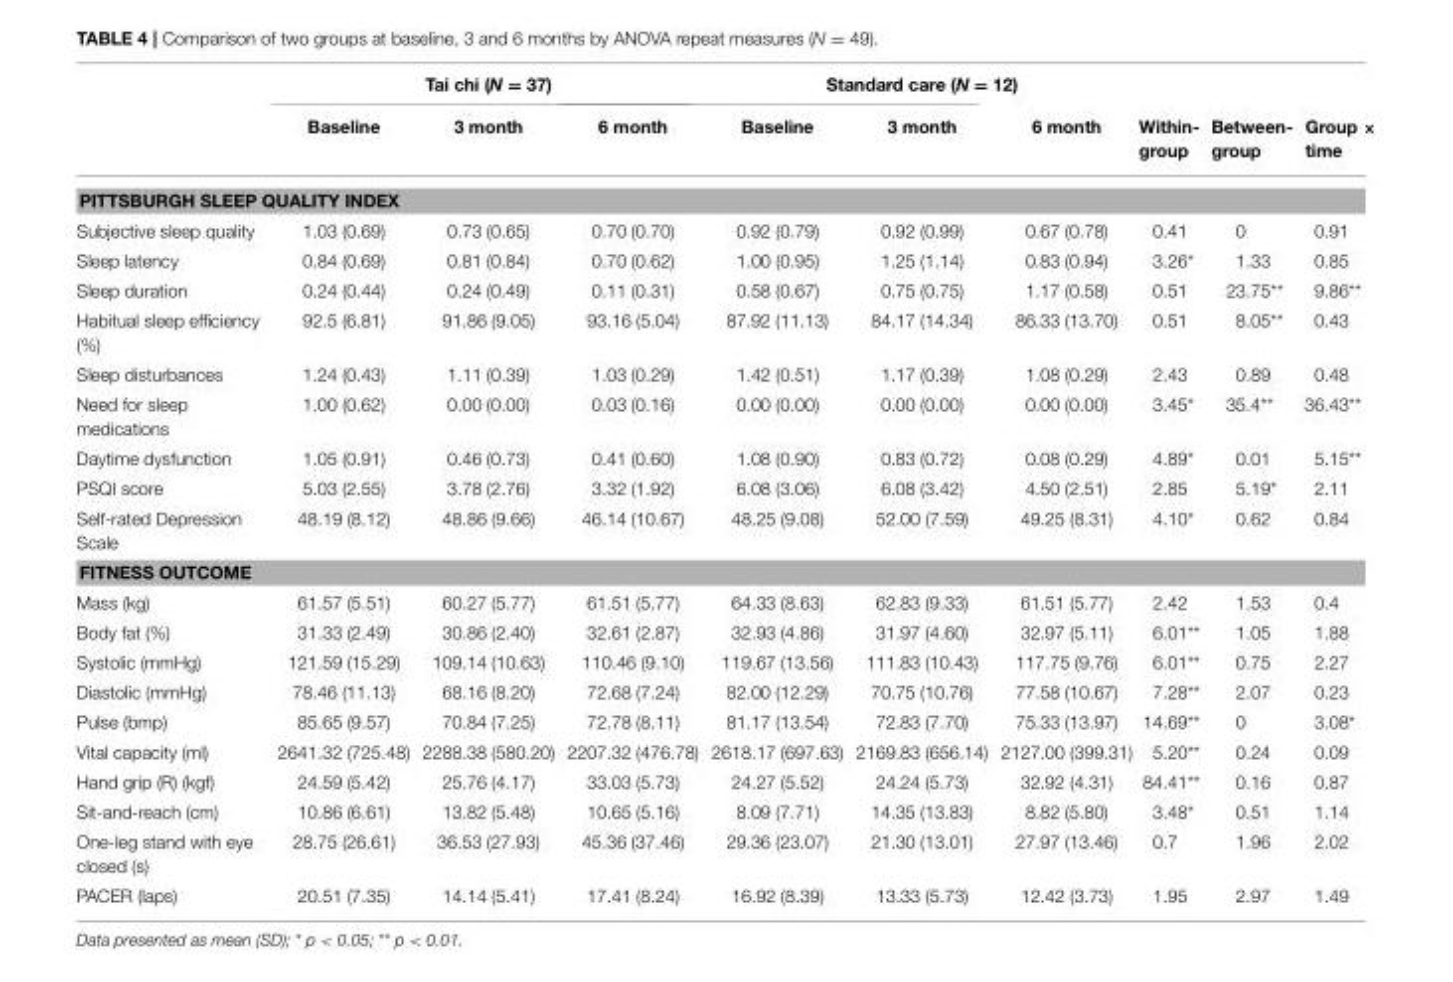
<table><thead><tr><td rowspan="2"></td><td colspan="3">Tai chi (N = 37)</td><td colspan="3">Standard care (N = 12)</td><td rowspan="2">Within- group</td><td rowspan="2">Between- group</td><td rowspan="2">Group × time</td></tr><tr><td>Baseline</td><td>3 month</td><td>6 month</td><td>Baseline</td><td>3 month</td><td>6 month</td></tr></thead><tbody><tr><td colspan="10">PITTSBURGH SLEEP QUALITY INDEX</td></tr><tr><td>Subjective sleep quality</td><td>1.03 (0.69)</td><td>0.73 (0.65)</td><td>0.70 (0.70)</td><td>0.92 (0.79)</td><td>0.92 (0.99)</td><td>0.67 (0.78)</td><td>0.41</td><td>0</td><td>0.91</td></tr><tr><td>Sleep latency</td><td>0.84 (0.69)</td><td>0.81 (0.84)</td><td>0.70 (0.62)</td><td>1.00 (0.95)</td><td>1.25 (1.14)</td><td>0.83 (0.94)</td><td>3.26*</td><td>1.33</td><td>0.85</td></tr><tr><td>Sleep duration</td><td>0.24 (0.44)</td><td>0.24 (0.49)</td><td>0.11 (0.31)</td><td>0.58 (0.67)</td><td>0.75 (0.75)</td><td>1.17 (0.58)</td><td>0.51</td><td>23.75**</td><td>9.86**</td></tr><tr><td>Habitual sleep efficiency (%)</td><td>92.5 (6.81)</td><td>91.86 (9.05)</td><td>93.16 (5.04)</td><td>87.92 (11.13)</td><td>84.17 (14.34)</td><td>86.33 (13.70)</td><td>0.51</td><td>8.05**</td><td>0.43</td></tr><tr><td>Sleep disturbances</td><td>1.24 (0.43)</td><td>1.11 (0.39)</td><td>1.03 (0.29)</td><td>1.42 (0.51)</td><td>1.17 (0.39)</td><td>1.08 (0.29)</td><td>2.43</td><td>0.89</td><td>0.48</td></tr><tr><td>Need for sleep medications</td><td>1.00 (0.62)</td><td>0.00 (0.00)</td><td>0.03 (0.16)</td><td>0.00 (0.00)</td><td>0.00 (0.00)</td><td>0.00 (0.00)</td><td>3.45*</td><td>35.4**</td><td>36.43**</td></tr><tr><td>Daytime dysfunction</td><td>1.05 (0.91)</td><td>0.46 (0.73)</td><td>0.41 (0.60)</td><td>1.08 (0.90)</td><td>0.83 (0.72)</td><td>0.08 (0.29)</td><td>4.89*</td><td>0.01</td><td>5.15**</td></tr><tr><td>PSQI score</td><td>5.03 (2.55)</td><td>3.78 (2.76)</td><td>3.32 (1.92)</td><td>6.08 (3.06)</td><td>6.08 (3.42)</td><td>4.50 (2.51)</td><td>2.85</td><td>5.19*</td><td>2.11</td></tr><tr><td>Self-rated Depression Scale</td><td>48.19 (8.12)</td><td>48.86 (9.66)</td><td>46.14 (10.67)</td><td>48.25 (9.08)</td><td>52.00 (7.59)</td><td>49.25 (8.31)</td><td>4.10*</td><td>0.62</td><td>0.84</td></tr><tr><td colspan="10">FITNESS OUTCOME</td></tr><tr><td>Mass (kg)</td><td>61.57 (5.51)</td><td>60.27 (5.77)</td><td>61.51 (5.77)</td><td>64.33 (8.63)</td><td>62.83 (9.33)</td><td>61.51 (5.77)</td><td>2.42</td><td>1.53</td><td>0.4</td></tr><tr><td>Body fat (%)</td><td>31.33 (2.49)</td><td>30.86 (2.40)</td><td>32.61 (2.87)</td><td>32.93 (4.86)</td><td>31.97 (4.60)</td><td>32.97 (5.11)</td><td>6.01**</td><td>1.05</td><td>1.88</td></tr><tr><td>Systolic (mmHg)</td><td>121.59 (15.29)</td><td>109.14 (10.63)</td><td>110.46 (9.10)</td><td>119.67 (13.56)</td><td>111.83 (10.43)</td><td>117.75 (9.76)</td><td>6.01**</td><td>0.75</td><td>2.27</td></tr><tr><td>Diastolic (mmHg)</td><td>78.46 (11.13)</td><td>68.16 (8.20)</td><td>72.68 (7.24)</td><td>82.00 (12.29)</td><td>70.75 (10.76)</td><td>77.58 (10.67)</td><td>7.28**</td><td>2.07</td><td>0.23</td></tr><tr><td>Pulse (bmp)</td><td>85.65 (9.57)</td><td>70.84 (7.25)</td><td>72.78 (8.11)</td><td>81.17 (13.54)</td><td>72.83 (7.70)</td><td>75.33 (13.97)</td><td>14.69**</td><td>0</td><td>3.08*</td></tr><tr><td>Vital capacity (ml)</td><td>2641.32 (725.48)</td><td>2288.38 (580.20)</td><td>2207.32 (476.78)</td><td>2618.17 (697.63)</td><td>2169.83 (656.14)</td><td>2127.00 (399.31)</td><td>5.20**</td><td>0.24</td><td>0.09</td></tr><tr><td>Hand grip (R) (kgf)</td><td>24.59 (5.42)</td><td>25.76 (4.17)</td><td>33.03 (5.73)</td><td>24.27 (5.52)</td><td>24.24 (5.73)</td><td>32.92 (4.31)</td><td>84.41**</td><td>0.16</td><td>0.87</td></tr><tr><td>Sit-and-reach (cm)</td><td>10.86 (6.61)</td><td>13.82 (5.48)</td><td>10.65 (5.16)</td><td>8.09 (7.71)</td><td>14.35 (13.83)</td><td>8.82 (5.80)</td><td>3.48*</td><td>0.51</td><td>1.14</td></tr><tr><td>One-leg stand with eye closed (s)</td><td>28.75 (26.61)</td><td>36.53 (27.93)</td><td>45.36 (37.46)</td><td>29.36 (23.07)</td><td>21.30 (13.01)</td><td>27.97 (13.46)</td><td>0.7</td><td>1.96</td><td>2.02</td></tr><tr><td>PACER (laps)</td><td>20.51 (7.35)</td><td>14.14 (5.41)</td><td>17.41 (8.24)</td><td>16.92 (8.39)</td><td>13.33 (5.73)</td><td>12.42 (3.73)</td><td>1.95</td><td>2.97</td><td>1.49</td></tr></tbody></table>